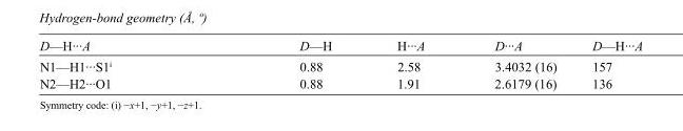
<table><tbody><tr><td>D—H···A</td><td>D—H</td><td>H···A</td><td>D···A</td><td>D—H···A</td></tr><tr><td>N1—H1···S1<sup>i</sup></td><td>0.88</td><td>2.58</td><td>3.4032 (16)</td><td>157</td></tr><tr><td>N2—H2···O1</td><td>0.88</td><td>1.91</td><td>2.6179 (16)</td><td>136</td></tr></tbody></table>